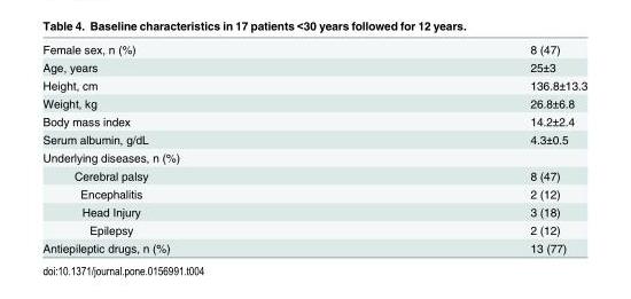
<table><tbody><tr><td>Female sex, n (%)</td><td>8 (47)</td></tr><tr><td>Age, years</td><td>25±3</td></tr><tr><td>Height, cm</td><td>136.8±13.3</td></tr><tr><td>Weight, kg</td><td>26.8±6.8</td></tr><tr><td>Body mass index</td><td>14.2±2.4</td></tr><tr><td>Serum albumin, g/dL</td><td>4.3±0.5</td></tr><tr><td colspan="2">Underlying diseases, n (%)</td></tr><tr><td>Cerebral palsy</td><td>8 (47)</td></tr><tr><td>Encephalitis</td><td>2 (12)</td></tr><tr><td>Head Injury</td><td>3 (18)</td></tr><tr><td>Epilepsy</td><td>2 (12)</td></tr><tr><td>Antiepileptic drugs, n (%)</td><td>13 (77)</td></tr></tbody></table>